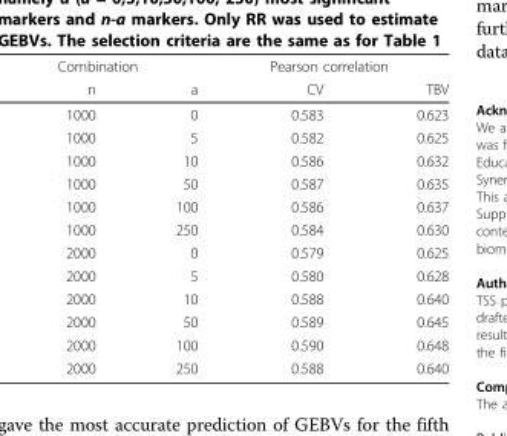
<table><thead><tr><td colspan="2">Combination</td><td colspan="2">Pearson correlation</td></tr><tr><td>n</td><td>a</td><td>CV</td><td>TBV</td></tr></thead><tbody><tr><td>1000</td><td>0</td><td>0.583</td><td>0.623</td></tr><tr><td>1000</td><td>5</td><td>0.582</td><td>0.625</td></tr><tr><td>1000</td><td>10</td><td>0.586</td><td>0.632</td></tr><tr><td>1000</td><td>50</td><td>0.587</td><td>0.635</td></tr><tr><td>1000</td><td>100</td><td>0.586</td><td>0.637</td></tr><tr><td>1000</td><td>250</td><td>0.584</td><td>0.630</td></tr><tr><td>2000</td><td>0</td><td>0.579</td><td>0.625</td></tr><tr><td>2000</td><td>5</td><td>0.580</td><td>0.628</td></tr><tr><td>2000</td><td>10</td><td>0.588</td><td>0.640</td></tr><tr><td>2000</td><td>50</td><td>0.589</td><td>0.645</td></tr><tr><td>2000</td><td>100</td><td>0.590</td><td>0.648</td></tr><tr><td>2000</td><td>250</td><td>0.588</td><td>0.640</td></tr></tbody></table>